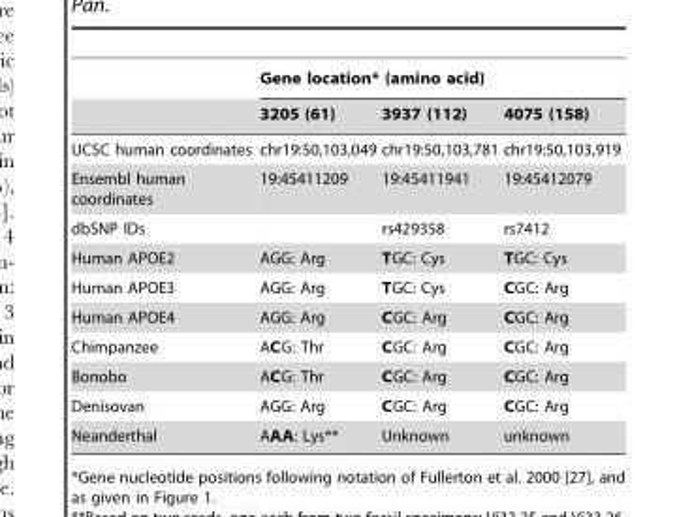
<table><thead><tr><td rowspan="2"></td><td colspan="3">Gene location* (amino acid)</td></tr><tr><td>3205 (61)</td><td>3937 (112)</td><td>4075 (158)</td></tr></thead><tbody><tr><td>UCSC human coordinates</td><td>chr19:50,103,049</td><td>chr19:50,103,781</td><td>chr19:50,103,919</td></tr><tr><td>Ensembl human coordinates</td><td>19:45411209</td><td>19:45411941</td><td>19:45412079</td></tr><tr><td>dbSNP IDs</td><td></td><td>rs429358</td><td>rs7412</td></tr><tr><td>Human APOE2</td><td>AGG: Arg</td><td>TGC: Cys</td><td>TGC: Cys</td></tr><tr><td>Human APOE3</td><td>AGG: Arg</td><td>TGC: Cys</td><td>CGC: Arg</td></tr><tr><td>Human APOE4</td><td>AGG: Arg</td><td>CGC: Arg</td><td>CGC: Arg</td></tr><tr><td>Chimpanzee</td><td>ACG: Thr</td><td>CGC: Arg</td><td>CGC: Arg</td></tr><tr><td>Bonobo</td><td>ACG: Thr</td><td>CGC: Arg</td><td>CGC: Arg</td></tr><tr><td>Denisovan</td><td>AGG: Arg</td><td>CGC: Arg</td><td>CGC: Arg</td></tr><tr><td>Neanderthal</td><td>AAA: Lys**</td><td>Unknown</td><td>unknown</td></tr></tbody></table>